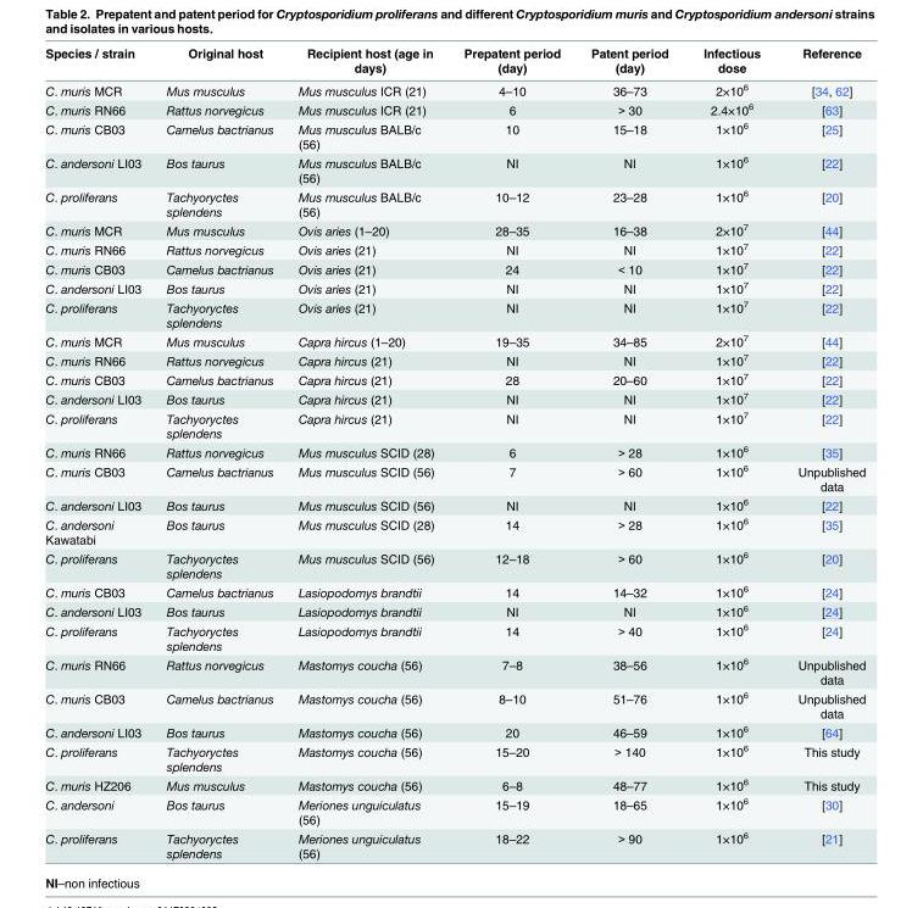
<table><thead><tr><td>Species / strain</td><td>Original host</td><td>Recipient host (age in days)</td><td>Prepatent period (day)</td><td>Patent period (day)</td><td>Infectious dose</td><td>Reference</td></tr></thead><tbody><tr><td>C. muris MCR</td><td>Mus musculus</td><td>Mus musculus ICR (21)</td><td>4–10</td><td>36–73</td><td>2×10<sup>6</sup></td><td>[34, 62]</td></tr><tr><td>C. muris RN66</td><td>Rattus norvegicus</td><td>Mus musculus ICR (21)</td><td>6</td><td>&gt; 30</td><td>2.4×10<sup>6</sup></td><td>[63]</td></tr><tr><td>C. muris CB03</td><td>Camelus bactrianus</td><td>Mus musculus BALB/c (56)</td><td>10</td><td>15–18</td><td>1×10<sup>6</sup></td><td>[25]</td></tr><tr><td>C. andersoni LI03</td><td>Bos taurus</td><td>Mus musculus BALB/c (56)</td><td>NI</td><td>NI</td><td>1×10<sup>6</sup></td><td>[22]</td></tr><tr><td>C. proliferans</td><td>Tachyoryctes splendens</td><td>Mus musculus BALB/c (56)</td><td>10–12</td><td>23–28</td><td>1×10<sup>6</sup></td><td>[20]</td></tr><tr><td>C. muris MCR</td><td>Mus musculus</td><td>Ovis aries (1–20)</td><td>28–35</td><td>16–38</td><td>2×10<sup>7</sup></td><td>[44]</td></tr><tr><td>C. muris RN66</td><td>Rattus norvegicus</td><td>Ovis aries (21)</td><td>NI</td><td>NI</td><td>1×10<sup>7</sup></td><td>[22]</td></tr><tr><td>C. muris CB03</td><td>Camelus bactrianus</td><td>Ovis aries (21)</td><td>24</td><td>&lt; 10</td><td>1×10<sup>7</sup></td><td>[22]</td></tr><tr><td>C. andersoni LI03</td><td>Bos taurus</td><td>Ovis aries (21)</td><td>NI</td><td>NI</td><td>1×10<sup>7</sup></td><td>[22]</td></tr><tr><td>C. proliferans</td><td>Tachyoryctes splendens</td><td>Ovis aries (21)</td><td>NI</td><td>NI</td><td>1×10<sup>7</sup></td><td>[22]</td></tr><tr><td>C. muris MCR</td><td>Mus musculus</td><td>Capra hircus (1–20)</td><td>19–35</td><td>34–85</td><td>2×10<sup>7</sup></td><td>[44]</td></tr><tr><td>C. muris RN66</td><td>Rattus norvegicus</td><td>Capra hircus (21)</td><td>NI</td><td>NI</td><td>1×10<sup>7</sup></td><td>[22]</td></tr><tr><td>C. muris CB03</td><td>Camelus bactrianus</td><td>Capra hircus (21)</td><td>28</td><td>20–60</td><td>1×10<sup>7</sup></td><td>[22]</td></tr><tr><td>C. andersoni LI03</td><td>Bos taurus</td><td>Capra hircus (21)</td><td>NI</td><td>NI</td><td>1×10<sup>7</sup></td><td>[22]</td></tr><tr><td>C. proliferans</td><td>Tachyoryctes splendens</td><td>Capra hircus (21)</td><td>NI</td><td>NI</td><td>1×10<sup>7</sup></td><td>[22]</td></tr><tr><td>C. muris RN66</td><td>Rattus norvegicus</td><td>Mus musculus SCID (28)</td><td>6</td><td>&gt; 28</td><td>1×10<sup>6</sup></td><td>[35]</td></tr><tr><td>C. muris CB03</td><td>Camelus bactrianus</td><td>Mus musculus SCID (56)</td><td>7</td><td>&gt; 60</td><td>1×10<sup>6</sup></td><td>Unpublished data</td></tr><tr><td>C. andersoni LI03</td><td>Bos taurus</td><td>Mus musculus SCID (56)</td><td>NI</td><td>NI</td><td>1×10<sup>6</sup></td><td>[22]</td></tr><tr><td>C. andersoni Kawatabi</td><td>Bos taurus</td><td>Mus musculus SCID (28)</td><td>14</td><td>&gt; 28</td><td>1×10<sup>6</sup></td><td>[35]</td></tr><tr><td>C. proliferans</td><td>Tachyoryctes splendens</td><td>Mus musculus SCID (56)</td><td>12–18</td><td>&gt; 60</td><td>1×10<sup>6</sup></td><td>[20]</td></tr><tr><td>C. muris CB03</td><td>Camelus bactrianus</td><td>Lasiopodomys brandtii</td><td>14</td><td>14–32</td><td>1×10<sup>6</sup></td><td>[24]</td></tr><tr><td>C. andersoni LI03</td><td>Bos taurus</td><td>Lasiopodomys brandtii</td><td>NI</td><td>NI</td><td>1×10<sup>6</sup></td><td>[24]</td></tr><tr><td>C. proliferans</td><td>Tachyoryctes splendens</td><td>Lasiopodomys brandtii</td><td>14</td><td>&gt; 40</td><td>1×10<sup>6</sup></td><td>[24]</td></tr><tr><td>C. muris RN66</td><td>Rattus norvegicus</td><td>Mastomys coucha (56)</td><td>7–8</td><td>38–56</td><td>1×10<sup>6</sup></td><td>Unpublished data</td></tr><tr><td>C. muris CB03</td><td>Camelus bactrianus</td><td>Mastomys coucha (56)</td><td>8–10</td><td>51–76</td><td>1×10<sup>6</sup></td><td>Unpublished data</td></tr><tr><td>C. andersoni LI03</td><td>Bos taurus</td><td>Mastomys coucha (56)</td><td>20</td><td>46–59</td><td>1×10<sup>6</sup></td><td>[64]</td></tr><tr><td>C. proliferans</td><td>Tachyoryctes splendens</td><td>Mastomys coucha (56)</td><td>15–20</td><td>&gt; 140</td><td>1×10<sup>6</sup></td><td>This study</td></tr><tr><td>C. muris HZ206</td><td>Mus musculus</td><td>Mastomys coucha (56)</td><td>6–8</td><td>48–77</td><td>1×10<sup>6</sup></td><td>This study</td></tr><tr><td>C. andersoni</td><td>Bos taurus</td><td>Meriones unguiculatus (56)</td><td>15–19</td><td>18–65</td><td>1×10<sup>6</sup></td><td>[30]</td></tr><tr><td>C. proliferans</td><td>Tachyoryctes splendens</td><td>Meriones unguiculatus (56)</td><td>18–22</td><td>&gt; 90</td><td>1×10<sup>6</sup></td><td>[21]</td></tr></tbody></table>